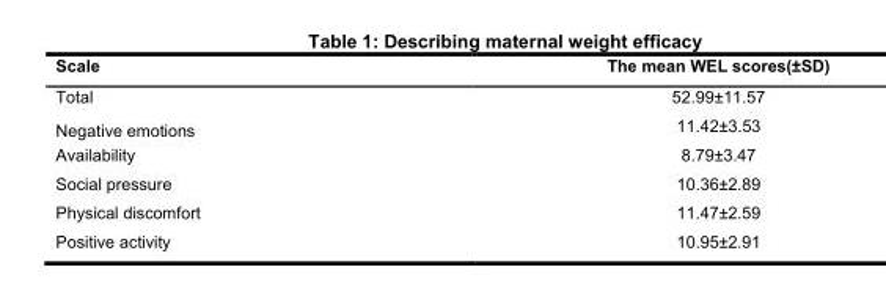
<table><thead><tr><td>Scale</td><td>The mean WEL scores(±SD)</td></tr></thead><tbody><tr><td>Total</td><td>52.99±11.57</td></tr><tr><td>Negative emotions</td><td>11.42±3.53</td></tr><tr><td>Availability</td><td>8.79±3.47</td></tr><tr><td>Social pressure</td><td>10.36±2.89</td></tr><tr><td>Physical discomfort</td><td>11.47±2.59</td></tr><tr><td>Positive activity</td><td>10.95±2.91</td></tr></tbody></table>